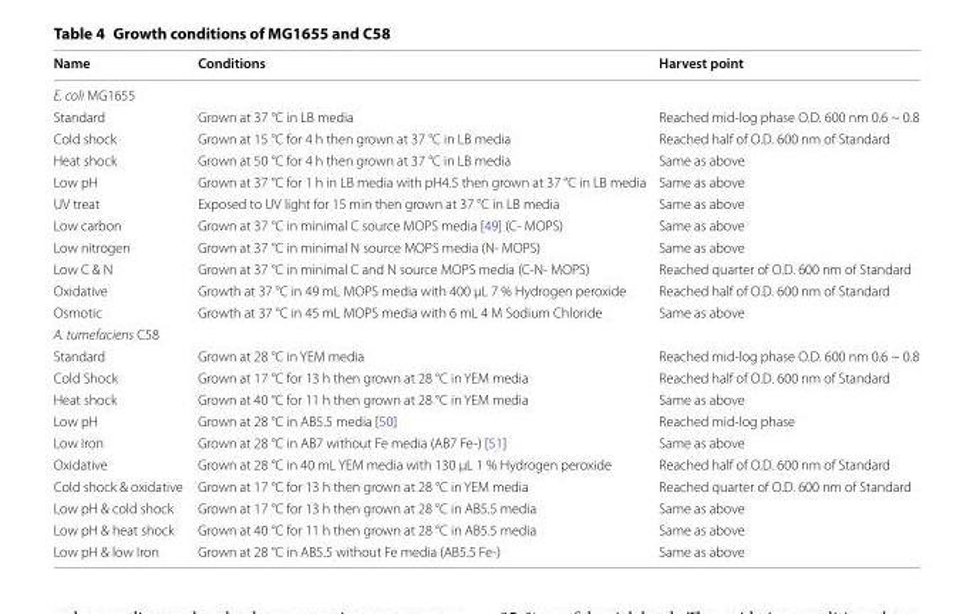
<table><thead><tr><td>Name</td><td>Conditions</td><td>Harvest point</td></tr></thead><tbody><tr><td colspan="3">E. coli MG1655</td></tr><tr><td>Standard</td><td>Grown at 37 °C in LB media</td><td>Reached mid‑log phase O.D. 600 nm 0.6 ~ 0.8</td></tr><tr><td>Cold shock</td><td>Grown at 15 °C for 4 h then grown at 37 °C in LB media</td><td>Reached half of O.D. 600 nm of Standard</td></tr><tr><td>Heat shock</td><td>Grown at 50 °C for 4 h then grown at 37 °C in LB media</td><td>Same as above</td></tr><tr><td>Low pH</td><td>Grown at 37 °C for 1 h in LB media with pH4.5 then grown at 37 °C in LB media</td><td>Same as above</td></tr><tr><td>UV treat</td><td>Exposed to UV light for 15 min then grown at 37 °C in LB media</td><td>Same as above</td></tr><tr><td>Low carbon</td><td>Grown at 37 °C in minimal C source MOPS media [49] (C‑ MOPS)</td><td>Same as above</td></tr><tr><td>Low nitrogen</td><td>Grown at 37 °C in minimal N source MOPS media (N‑ MOPS)</td><td>Same as above</td></tr><tr><td>Low C &amp; N</td><td>Grown at 37 °C in minimal C and N source MOPS media (C‑N‑ MOPS)</td><td>Reached quarter of O.D. 600 nm of Standard</td></tr><tr><td>Oxidative</td><td>Growth at 37 °C in 49 mL MOPS media with 400 μL 7 % Hydrogen peroxide</td><td>Reached half of O.D. 600 nm of Standard</td></tr><tr><td>Osmotic</td><td>Growth at 37 °C in 45 mL MOPS media with 6 mL 4 M Sodium Chloride</td><td>Same as above</td></tr><tr><td colspan="3">A. tumefaciens C58</td></tr><tr><td>Standard</td><td>Grown at 28 °C in YEM media</td><td>Reached mid‑log phase O.D. 600 nm 0.6 ~ 0.8</td></tr><tr><td>Cold Shock</td><td>Grown at 17 °C for 13 h then grown at 28 °C in YEM media</td><td>Reached half of O.D. 600 nm of Standard</td></tr><tr><td>Heat shock</td><td>Grown at 40 °C for 11 h then grown at 28 °C in YEM media</td><td>Same as above</td></tr><tr><td>Low pH</td><td>Grown at 28 °C in AB5.5 media [50]</td><td>Reached mid‑log phase</td></tr><tr><td>Low Iron</td><td>Grown at 28 °C in AB7 without Fe media (AB7 Fe‑) [51]</td><td>Same as above</td></tr><tr><td>Oxidative</td><td>Grown at 28 °C in 40 mL YEM media with 130 μL 1 % Hydrogen peroxide</td><td>Reached half of O.D. 600 nm of Standard</td></tr><tr><td>Cold shock &amp; oxidative</td><td>Grown at 17 °C for 13 h then grown at 28 °C in YEM media</td><td>Reached quarter of O.D. 600 nm of Standard</td></tr><tr><td>Low pH &amp; cold shock</td><td>Grown at 17 °C for 13 h then grown at 28 °C in AB5.5 media</td><td>Same as above</td></tr><tr><td>Low pH &amp; heat shock</td><td>Grown at 40 °C for 11 h then grown at 28 °C in AB5.5 media</td><td>Same as above</td></tr><tr><td>Low pH &amp; low Iron</td><td>Grown at 28 °C in AB5.5 without Fe media (AB5.5 Fe‑)</td><td>Same as above</td></tr></tbody></table>